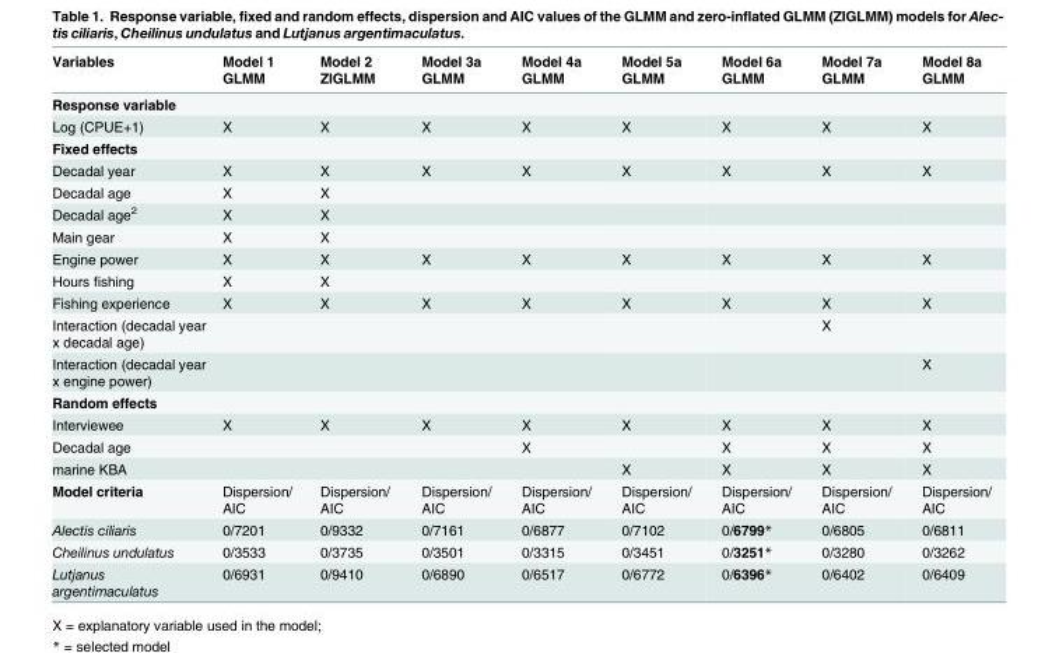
<table><thead><tr><td>Variables</td><td>Model 1 GLMM</td><td>Model 2 ZIGLMM</td><td>Model 3a GLMM</td><td>Model 4a GLMM</td><td>Model 5a GLMM</td><td>Model 6a GLMM</td><td>Model 7a GLMM</td><td>Model 8a GLMM</td></tr></thead><tbody><tr><td colspan="9">Response variable</td></tr><tr><td>Log (CPUE+1)</td><td>X</td><td>X</td><td>X</td><td>X</td><td>X</td><td>X</td><td>X</td><td>X</td></tr><tr><td colspan="9">Fixed effects</td></tr><tr><td>Decadal year</td><td>X</td><td>X</td><td>X</td><td>X</td><td>X</td><td>X</td><td>X</td><td>X</td></tr><tr><td>Decadal age</td><td>X</td><td>X</td><td></td><td></td><td></td><td></td><td></td><td></td></tr><tr><td>Decadal age<sup>2</sup></td><td>X</td><td>X</td><td></td><td></td><td></td><td></td><td></td><td></td></tr><tr><td>Main gear</td><td>X</td><td>X</td><td></td><td></td><td></td><td></td><td></td><td></td></tr><tr><td>Engine power</td><td>X</td><td>X</td><td>X</td><td>X</td><td>X</td><td>X</td><td>X</td><td>X</td></tr><tr><td>Hours fishing</td><td>X</td><td>X</td><td></td><td></td><td></td><td></td><td></td><td></td></tr><tr><td>Fishing experience</td><td>X</td><td>X</td><td>X</td><td>X</td><td>X</td><td>X</td><td>X</td><td>X</td></tr><tr><td>Interaction (decadal year x decadal age)</td><td></td><td></td><td></td><td></td><td></td><td></td><td>X</td><td></td></tr><tr><td>Interaction (decadal year x engine power)</td><td></td><td></td><td></td><td></td><td></td><td></td><td></td><td>X</td></tr><tr><td colspan="9">Random effects</td></tr><tr><td>Interviewee</td><td>X</td><td>X</td><td>X</td><td>X</td><td>X</td><td>X</td><td>X</td><td>X</td></tr><tr><td>Decadal age</td><td></td><td></td><td></td><td>X</td><td></td><td>X</td><td>X</td><td>X</td></tr><tr><td>marine KBA</td><td></td><td></td><td></td><td></td><td>X</td><td>X</td><td>X</td><td>X</td></tr><tr><td>Model criteria</td><td>Dispersion/ AIC</td><td>Dispersion/ AIC</td><td>Dispersion/ AIC</td><td>Dispersion/ AIC</td><td>Dispersion/ AIC</td><td>Dispersion/ AIC</td><td>Dispersion/ AIC</td><td>Dispersion/ AIC</td></tr><tr><td>Alectis ciliaris</td><td>0/7201</td><td>0/9332</td><td>0/7161</td><td>0/6877</td><td>0/7102</td><td>0/6799*</td><td>0/6805</td><td>0/6811</td></tr><tr><td>Cheilinus undulatus</td><td>0/3533</td><td>0/3735</td><td>0/3501</td><td>0/3315</td><td>0/3451</td><td>0/3251*</td><td>0/3280</td><td>0/3262</td></tr><tr><td>Lutjanus argentimaculatus</td><td>0/6931</td><td>0/9410</td><td>0/6890</td><td>0/6517</td><td>0/6772</td><td>0/6396*</td><td>0/6402</td><td>0/6409</td></tr></tbody></table>